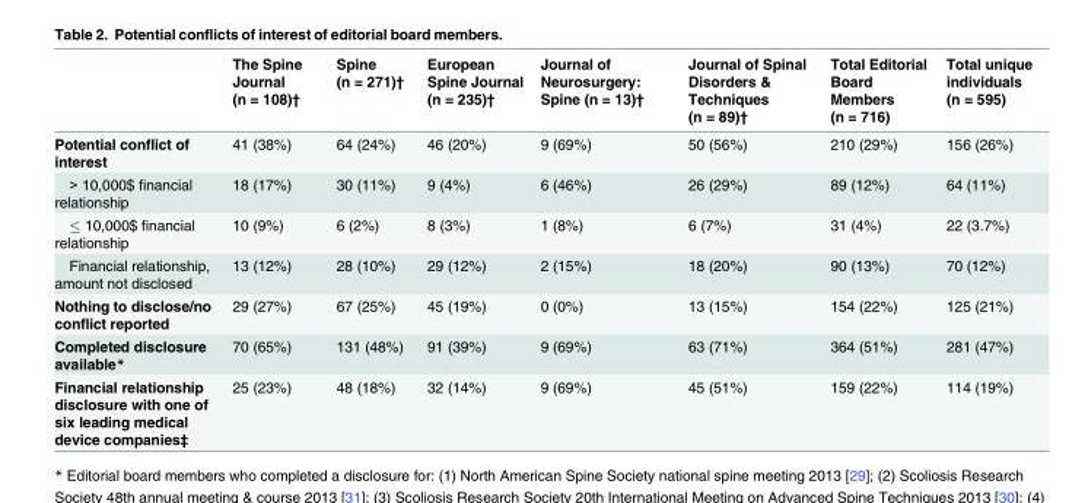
<table><thead><tr><td></td><td>The Spine Journal (n = 108)†</td><td>Spine (n = 271)†</td><td>European Spine Journal (n = 235)†</td><td>Journal of Neurosurgery: Spine (n = 13)†</td><td>Journal of Spinal Disorders &amp; Techniques (n = 89)†</td><td>Total Editorial Board Members (n = 716)</td><td>Total unique individuals (n = 595)</td></tr></thead><tbody><tr><td>Potential conflict of interest</td><td>41 (38%)</td><td>64 (24%)</td><td>46 (20%)</td><td>9 (69%)</td><td>50 (56%)</td><td>210 (29%)</td><td>156 (26%)</td></tr><tr><td>&gt; 10,000$ financial relationship</td><td>18 (17%)</td><td>30 (11%)</td><td>9 (4%)</td><td>6 (46%)</td><td>26 (29%)</td><td>89 (12%)</td><td>64 (11%)</td></tr><tr><td>≤ 10,000$ financial relationship</td><td>10 (9%)</td><td>6 (2%)</td><td>8 (3%)</td><td>1 (8%)</td><td>6 (7%)</td><td>31 (4%)</td><td>22 (3.7%)</td></tr><tr><td>Financial relationship, amount not disclosed</td><td>13 (12%)</td><td>28 (10%)</td><td>29 (12%)</td><td>2 (15%)</td><td>18 (20%)</td><td>90 (13%)</td><td>70 (12%)</td></tr><tr><td>Nothing to disclose/no conflict reported</td><td>29 (27%)</td><td>67 (25%)</td><td>45 (19%)</td><td>0 (0%)</td><td>13 (15%)</td><td>154 (22%)</td><td>125 (21%)</td></tr><tr><td>Completed disclosure available*</td><td>70 (65%)</td><td>131 (48%)</td><td>91 (39%)</td><td>9 (69%)</td><td>63 (71%)</td><td>364 (51%)</td><td>281 (47%)</td></tr><tr><td>Financial relationship disclosure with one of six leading medical device companies‡</td><td>25 (23%)</td><td>48 (18%)</td><td>32 (14%)</td><td>9 (69%)</td><td>45 (51%)</td><td>159 (22%)</td><td>114 (19%)</td></tr></tbody></table>